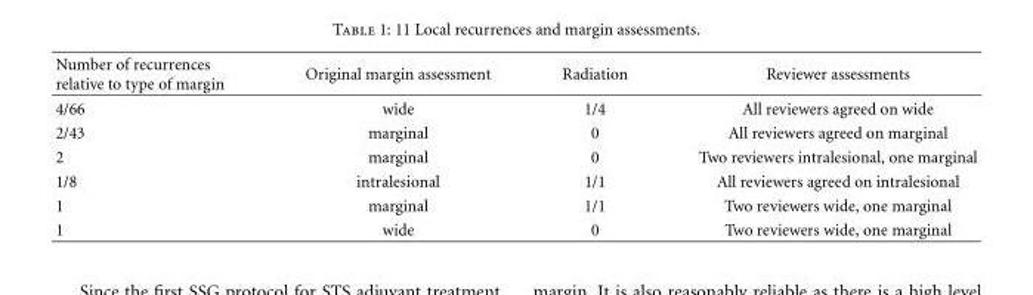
<table><thead><tr><td>Number of recurrences relative to type of margin</td><td>Original margin assessment</td><td>Radiation</td><td>Reviewer assessments</td></tr></thead><tbody><tr><td>4/66</td><td>wide</td><td>1/4</td><td>All reviewers agreed on wide</td></tr><tr><td>2/43</td><td>marginal</td><td>0</td><td>All reviewers agreed on marginal</td></tr><tr><td>2</td><td>marginal</td><td>0</td><td>Two reviewers intralesional, one marginal</td></tr><tr><td>1/8</td><td>intralesional</td><td>1/1</td><td>All reviewers agreed on intralesional</td></tr><tr><td>1</td><td>marginal</td><td>1/1</td><td>Two reviewers wide, one marginal</td></tr><tr><td>1</td><td>wide</td><td>0</td><td>Two reviewers wide, one marginal</td></tr></tbody></table>